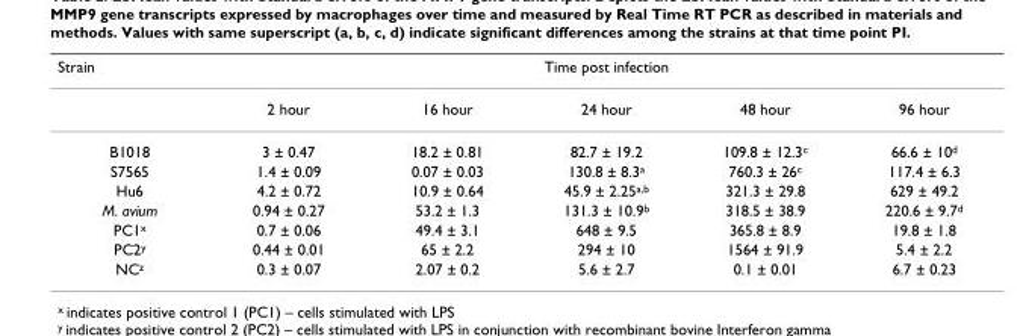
<table><thead><tr><td rowspan="2">Strain</td><td colspan="5">Time post infection</td></tr><tr><td>2 hour</td><td>16 hour</td><td>24 hour</td><td>48 hour</td><td>96 hour</td></tr></thead><tbody><tr><td>B1018</td><td>3 ± 0.47</td><td>18.2 ± 0.81</td><td>82.7 ± 19.2</td><td>109.8 ± 12.3c</td><td>66.6 ± 10d</td></tr><tr><td>S7565</td><td>1.4 ± 0.09</td><td>0.07 ± 0.03</td><td>130.8 ± 8.3a</td><td>760.3 ± 26c</td><td>117.4 ± 6.3</td></tr><tr><td>Hu6</td><td>4.2 ± 0.72</td><td>10.9 ± 0.64</td><td>45.9 ± 2.25a,b</td><td>321.3 ± 29.8</td><td>629 ± 49.2</td></tr><tr><td>M. avium</td><td>0.94 ± 0.27</td><td>53.2 ± 1.3</td><td>131.3 ± 10.9b</td><td>318.5 ± 38.9</td><td>220.6 ± 9.7d</td></tr><tr><td>PC1x</td><td>0.7 ± 0.06</td><td>49.4 ± 3.1</td><td>648 ± 9.5</td><td>365.8 ± 8.9</td><td>19.8 ± 1.8</td></tr><tr><td>PC2y</td><td>0.44 ± 0.01</td><td>65 ± 2.2</td><td>294 ± 10</td><td>1564 ± 91.9</td><td>5.4 ± 2.2</td></tr><tr><td>NCz</td><td>0.3 ± 0.07</td><td>2.07 ± 0.2</td><td>5.6 ± 2.7</td><td>0.1 ± 0.01</td><td>6.7 ± 0.23</td></tr></tbody></table>